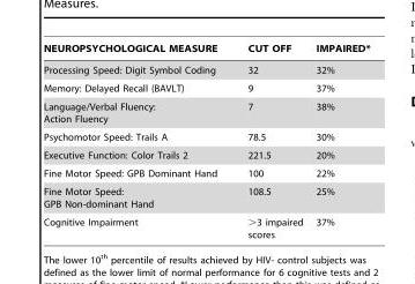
<table><thead><tr><td>NEUROPSYCHOLOGICAL MEASURE</td><td>CUT OFF</td><td>IMPAIRED*</td></tr></thead><tbody><tr><td>Processing Speed: Digit Symbol Coding</td><td>32</td><td>32%</td></tr><tr><td>Memory: Delayed Recall (BAVLT)</td><td>9</td><td>37%</td></tr><tr><td>Language/Verbal Fluency: Action Fluency</td><td>7</td><td>38%</td></tr><tr><td>Psychomotor Speed: Trails A</td><td>78.5</td><td>30%</td></tr><tr><td>Executive Function: Color Trails 2</td><td>221.5</td><td>20%</td></tr><tr><td>Fine Motor Speed: GPB Dominant Hand</td><td>100</td><td>22%</td></tr><tr><td>Fine Motor Speed: GPB Non-dominant Hand</td><td>108.5</td><td>25%</td></tr><tr><td>Cognitive Impairment</td><td>&gt;3 impaired scores</td><td>37%</td></tr></tbody></table>